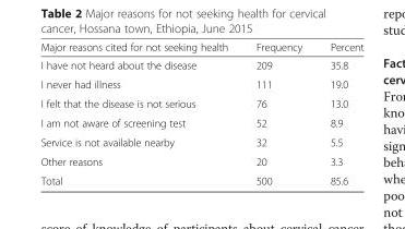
<table><thead><tr><td>Major reasons cited for not seeking health</td><td>Frequency</td><td>Percent</td></tr></thead><tbody><tr><td>I have not heard about the disease</td><td>209</td><td>35.8</td></tr><tr><td>I never had illness</td><td>111</td><td>19.0</td></tr><tr><td>I felt that the disease is not serious</td><td>76</td><td>13.0</td></tr><tr><td>I am not aware of screening test</td><td>52</td><td>8.9</td></tr><tr><td>Service is not available nearby</td><td>32</td><td>5.5</td></tr><tr><td>Other reasons</td><td>20</td><td>3.3</td></tr><tr><td>Total</td><td>500</td><td>85.6</td></tr></tbody></table>